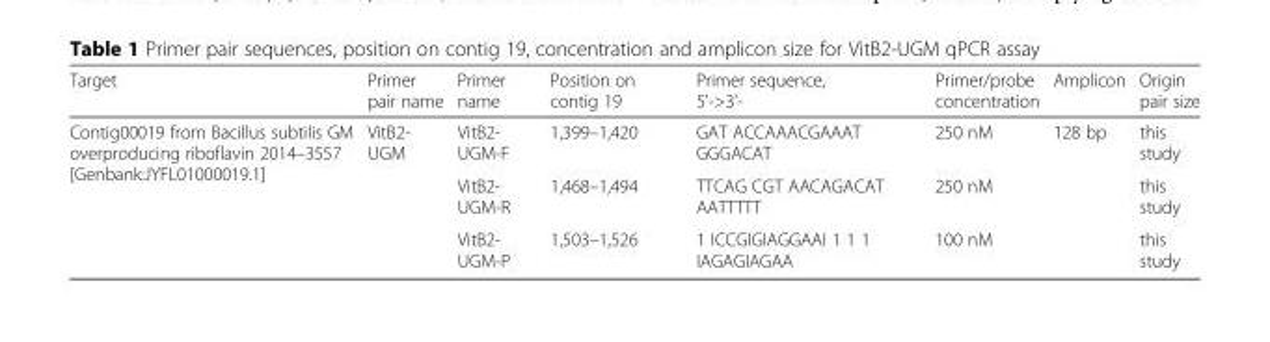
<table><thead><tr><td>Target</td><td>Primer pair name</td><td>Primer name</td><td>Position on contig 19</td><td>Primer sequence, 5&#x27;-&gt;3&#x27;-</td><td>Primer/probe concentration</td><td>Amplicon</td><td>Origin pair size</td></tr></thead><tbody><tr><td rowspan="3">Contig00019 from Bacillus subtilis GM overproducing riboflavin 2014–3557 [Genbank:JYFL01000019.1]</td><td rowspan="3">VitB2- UGM</td><td>VitB2- UGM-F</td><td>1,399–1,420</td><td>GAT ACCAAACGAAAT GGGACAT</td><td>250 nM</td><td rowspan="2">128 bp</td><td>this study</td></tr><tr><td>VitB2- UGM-R</td><td>1,468–1,494</td><td>TTCAG CGT AACAGACAT AATTTTT</td><td>250 nM</td><td>this study</td></tr><tr><td>VitB2- UGM-P</td><td>1,503–1,526</td><td>1 ICCGIGIAGGAAI 1 1 1 IAGAGIAGAA</td><td>100 nM</td><td></td><td>this study</td></tr></tbody></table>